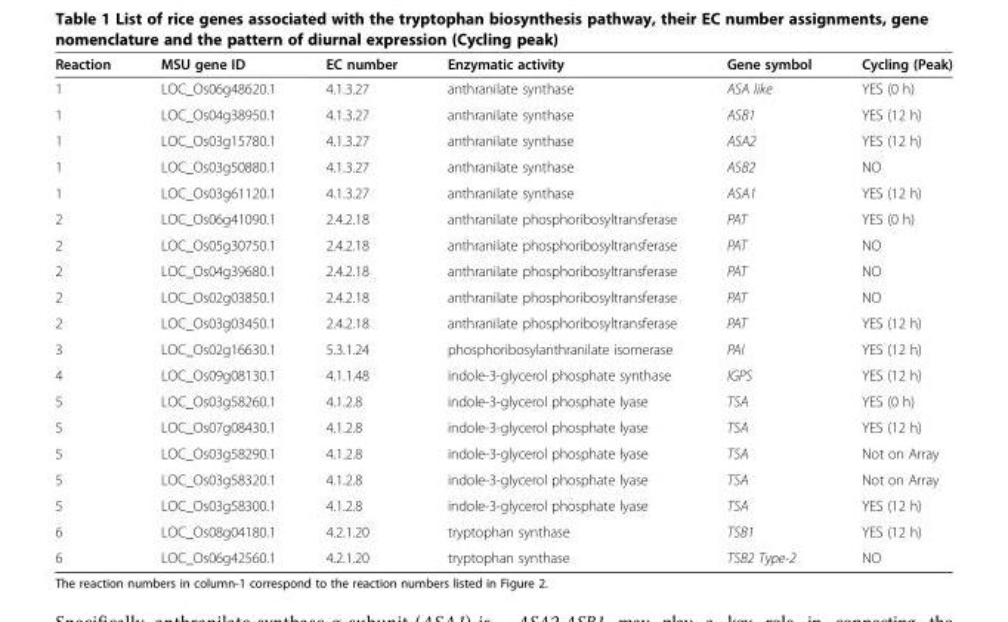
<table><thead><tr><td>Reaction</td><td>MSU gene ID</td><td>EC number</td><td>Enzymatic activity</td><td>Gene symbol</td><td>Cycling (Peak)</td></tr></thead><tbody><tr><td>1</td><td>LOC_Os06g48620.1</td><td>4.1.3.27</td><td>anthranilate synthase</td><td>ASA like</td><td>YES (0 h)</td></tr><tr><td>1</td><td>LOC_Os04g38950.1</td><td>4.1.3.27</td><td>anthranilate synthase</td><td>ASB1</td><td>YES (12 h)</td></tr><tr><td>1</td><td>LOC_Os03g15780.1</td><td>4.1.3.27</td><td>anthranilate synthase</td><td>ASA2</td><td>YES (12 h)</td></tr><tr><td>1</td><td>LOC_Os03g50880.1</td><td>4.1.3.27</td><td>anthranilate synthase</td><td>ASB2</td><td>NO</td></tr><tr><td>1</td><td>LOC_Os03g61120.1</td><td>4.1.3.27</td><td>anthranilate synthase</td><td>ASA1</td><td>YES (12 h)</td></tr><tr><td>2</td><td>LOC_Os06g41090.1</td><td>2.4.2.18</td><td>anthranilate phosphoribosyltransferase</td><td>PAT</td><td>YES (0 h)</td></tr><tr><td>2</td><td>LOC_Os05g30750.1</td><td>2.4.2.18</td><td>anthranilate phosphoribosyltransferase</td><td>PAT</td><td>NO</td></tr><tr><td>2</td><td>LOC_Os04g39680.1</td><td>2.4.2.18</td><td>anthranilate phosphoribosyltransferase</td><td>PAT</td><td>NO</td></tr><tr><td>2</td><td>LOC_Os02g03850.1</td><td>2.4.2.18</td><td>anthranilate phosphoribosyltransferase</td><td>PAT</td><td>NO</td></tr><tr><td>2</td><td>LOC_Os03g03450.1</td><td>2.4.2.18</td><td>anthranilate phosphoribosyltransferase</td><td>PAT</td><td>YES (12 h)</td></tr><tr><td>3</td><td>LOC_Os02g16630.1</td><td>5.3.1.24</td><td>phosphoribosylanthranilate isomerase</td><td>PAI</td><td>YES (12 h)</td></tr><tr><td>4</td><td>LOC_Os09g08130.1</td><td>4.1.1.48</td><td>indole-3-glycerol phosphate synthase</td><td>IGPS</td><td>YES (12 h)</td></tr><tr><td>5</td><td>LOC_Os03g58260.1</td><td>4.1.2.8</td><td>indole-3-glycerol phosphate lyase</td><td>TSA</td><td>YES (0 h)</td></tr><tr><td>5</td><td>LOC_Os07g08430.1</td><td>4.1.2.8</td><td>indole-3-glycerol phosphate lyase</td><td>TSA</td><td>YES (12 h)</td></tr><tr><td>5</td><td>LOC_Os03g58290.1</td><td>4.1.2.8</td><td>indole-3-glycerol phosphate lyase</td><td>TSA</td><td>Not on Array</td></tr><tr><td>5</td><td>LOC_Os03g58320.1</td><td>4.1.2.8</td><td>indole-3-glycerol phosphate lyase</td><td>TSA</td><td>Not on Array</td></tr><tr><td>5</td><td>LOC_Os03g58300.1</td><td>4.1.2.8</td><td>indole-3-glycerol phosphate lyase</td><td>TSA</td><td>YES (12 h)</td></tr><tr><td>6</td><td>LOC_Os08g04180.1</td><td>4.2.1.20</td><td>tryptophan synthase</td><td>TSB1</td><td>YES (12 h)</td></tr><tr><td>6</td><td>LOC_Os06g42560.1</td><td>4.2.1.20</td><td>tryptophan synthase</td><td>TSB2 Type-2</td><td>NO</td></tr></tbody></table>